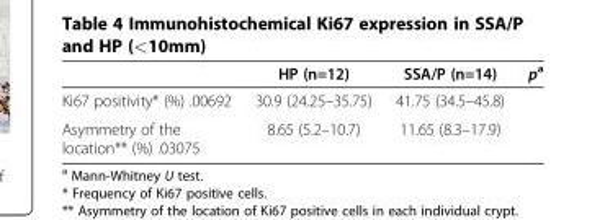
<table><thead><tr><td></td><td>HP (n=12)</td><td>SSA/P (n=14)</td><td>p<sup>a</sup></td></tr></thead><tbody><tr><td>Ki67 positivity* (%) .00692</td><td>30.9 (24.25–35.75)</td><td>41.75 (34.5–45.8)</td><td></td></tr><tr><td>Asymmetry of the location** (%) .03075</td><td>8.65 (5.2–10.7)</td><td>11.65 (8.3–17.9)</td><td></td></tr></tbody></table>